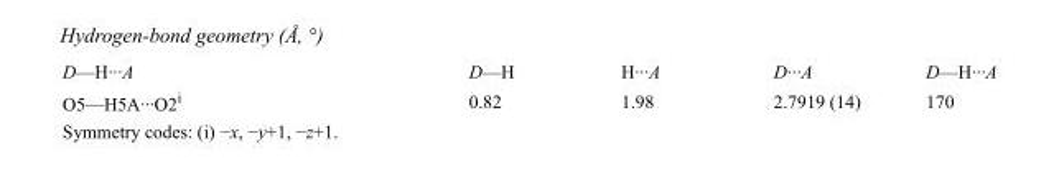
<table><tbody><tr><td>D—H···A</td><td>D—H</td><td>H···A</td><td>D···A</td><td>D—H···A</td></tr><tr><td>O5—H5A···O2<sup>i</sup></td><td>0.82</td><td>1.98</td><td>2.7919 (14)</td><td>170</td></tr></tbody></table>